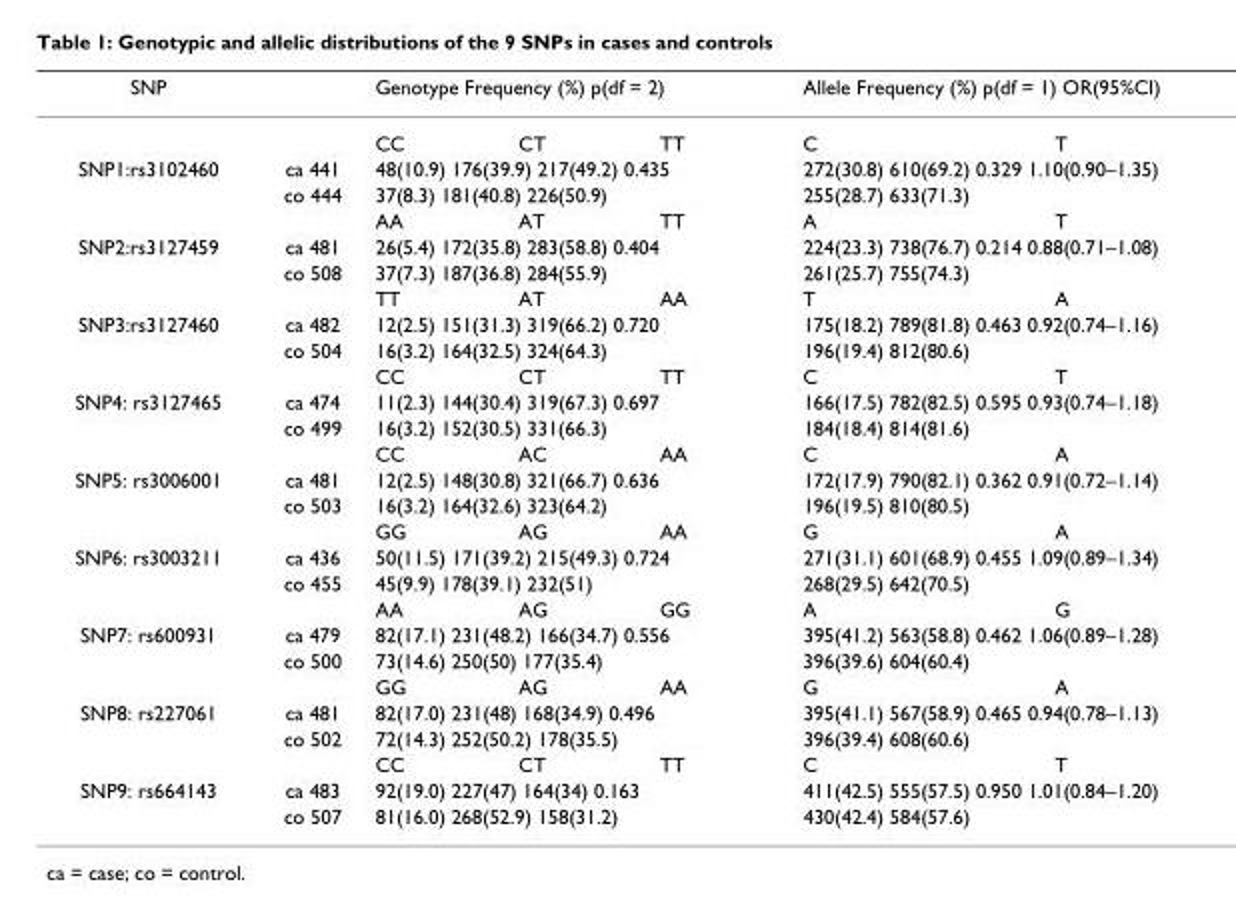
<table><thead><tr><td rowspan="2">SNP</td><td rowspan="2"></td><td colspan="3">Genotype Frequency (%) p(df = 2)</td><td colspan="2">Allele Frequency (%) p(df = 1) OR(95%CI)</td></tr><tr><td>CC</td><td>CT</td><td>TT</td><td>C</td><td>T</td></tr></thead><tbody><tr><td rowspan="3">SNP1:rs3102460</td><td>ca 441</td><td colspan="3">48(10.9) 176(39.9) 217(49.2) 0.435</td><td colspan="2">272(30.8) 610(69.2) 0.329 1.10(0.90–1.35)</td></tr><tr><td>co 444</td><td colspan="3">37(8.3) 181(40.8) 226(50.9)</td><td colspan="2">255(28.7) 633(71.3)</td></tr><tr><td></td><td>AA</td><td>AT</td><td>TT</td><td>A</td><td>T</td></tr><tr><td rowspan="3">SNP2:rs3127459</td><td>ca 481</td><td colspan="3">26(5.4) 172(35.8) 283(58.8) 0.404</td><td colspan="2">224(23.3) 738(76.7) 0.214 0.88(0.71–1.08)</td></tr><tr><td>co 508</td><td colspan="3">37(7.3) 187(36.8) 284(55.9)</td><td colspan="2">261(25.7) 755(74.3)</td></tr><tr><td></td><td>TT</td><td>AT</td><td>AA</td><td>T</td><td>A</td></tr><tr><td rowspan="3">SNP3:rs3127460</td><td>ca 482</td><td colspan="3">12(2.5) 151(31.3) 319(66.2) 0.720</td><td colspan="2">175(18.2) 789(81.8) 0.463 0.92(0.74–1.16)</td></tr><tr><td>co 504</td><td colspan="3">16(3.2) 164(32.5) 324(64.3)</td><td colspan="2">196(19.4) 812(80.6)</td></tr><tr><td></td><td>CC</td><td>CT</td><td>TT</td><td>C</td><td>T</td></tr><tr><td rowspan="3">SNP4: rs3127465</td><td>ca 474</td><td colspan="3">11(2.3) 144(30.4) 319(67.3) 0.697</td><td colspan="2">166(17.5) 782(82.5) 0.595 0.93(0.74–1.18)</td></tr><tr><td>co 499</td><td colspan="3">16(3.2) 152(30.5) 331(66.3)</td><td colspan="2">184(18.4) 814(81.6)</td></tr><tr><td></td><td>CC</td><td>AC</td><td>AA</td><td>C</td><td>A</td></tr><tr><td rowspan="3">SNP5: rs3006001</td><td>ca 481</td><td colspan="3">12(2.5) 148(30.8) 321(66.7) 0.636</td><td colspan="2">172(17.9) 790(82.1) 0.362 0.91(0.72–1.14)</td></tr><tr><td>co 503</td><td colspan="3">16(3.2) 164(32.6) 323(64.2)</td><td colspan="2">196(19.5) 810(80.5)</td></tr><tr><td></td><td>GG</td><td>AG</td><td>AA</td><td>G</td><td>A</td></tr><tr><td rowspan="3">SNP6: rs3003211</td><td>ca 436</td><td colspan="3">50(11.5) 171(39.2) 215(49.3) 0.724</td><td colspan="2">271(31.1) 601(68.9) 0.455 1.09(0.89–1.34)</td></tr><tr><td>co 455</td><td colspan="3">45(9.9) 178(39.1) 232(51)</td><td colspan="2">268(29.5) 642(70.5)</td></tr><tr><td></td><td>AA</td><td>AG</td><td>GG</td><td>A</td><td>G</td></tr><tr><td rowspan="3">SNP7: rs600931</td><td>ca 479</td><td colspan="3">82(17.1) 231(48.2) 166(34.7) 0.556</td><td colspan="2">395(41.2) 563(58.8) 0.462 1.06(0.89–1.28)</td></tr><tr><td>co 500</td><td colspan="3">73(14.6) 250(50) 177(35.4)</td><td colspan="2">396(39.6) 604(60.4)</td></tr><tr><td></td><td>GG</td><td>AG</td><td>AA</td><td>G</td><td>A</td></tr><tr><td rowspan="3">SNP8: rs227061</td><td>ca 481</td><td colspan="3">82(17.0) 231(48) 168(34.9) 0.496</td><td colspan="2">395(41.1) 567(58.9) 0.465 0.94(0.78–1.13)</td></tr><tr><td>co 502</td><td colspan="3">72(14.3) 252(50.2) 178(35.5)</td><td colspan="2">396(39.4) 608(60.6)</td></tr><tr><td></td><td>CC</td><td>CT</td><td>TT</td><td>C</td><td>T</td></tr><tr><td rowspan="2">SNP9: rs664143</td><td>ca 483</td><td colspan="3">92(19.0) 227(47) 164(34) 0.163</td><td colspan="2">411(42.5) 555(57.5) 0.950 1.01(0.84–1.20)</td></tr><tr><td>co 507</td><td colspan="3">81(16.0) 268(52.9) 158(31.2)</td><td colspan="2">430(42.4) 584(57.6)</td></tr></tbody></table>